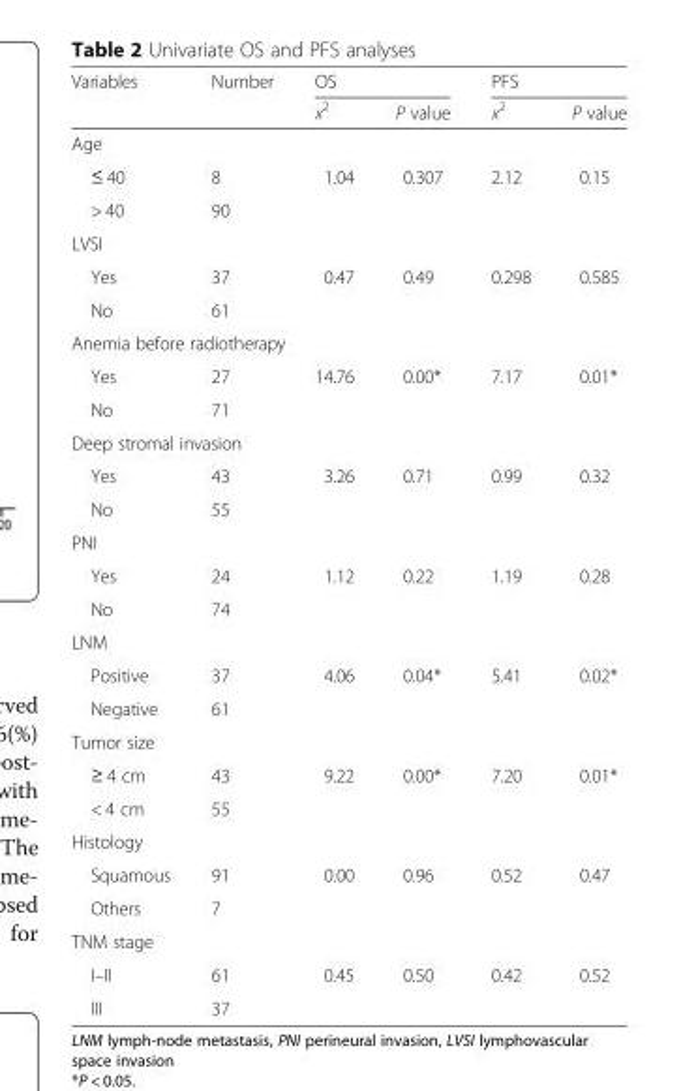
<table><thead><tr><td rowspan="2">Variables</td><td rowspan="2">Number</td><td colspan="2">OS</td><td colspan="2">PFS</td></tr><tr><td>x<sup>2</sup></td><td>P value</td><td>x<sup>2</sup></td><td>P value</td></tr></thead><tbody><tr><td colspan="6">Age</td></tr><tr><td>≤ 40</td><td>8</td><td rowspan="2">1.04</td><td rowspan="2">0.307</td><td rowspan="2">2.12</td><td rowspan="2">0.15</td></tr><tr><td>&gt; 40</td><td>90</td></tr><tr><td colspan="6">LVSI</td></tr><tr><td>Yes</td><td>37</td><td rowspan="2">0.47</td><td rowspan="2">0.49</td><td rowspan="2">0.298</td><td rowspan="2">0.585</td></tr><tr><td>No</td><td>61</td></tr><tr><td colspan="6">Anemia before radiotherapy</td></tr><tr><td>Yes</td><td>27</td><td rowspan="2">14.76</td><td rowspan="2">0.00*</td><td rowspan="2">7.17</td><td rowspan="2">0.01*</td></tr><tr><td>No</td><td>71</td></tr><tr><td colspan="6">Deep stromal invasion</td></tr><tr><td>Yes</td><td>43</td><td rowspan="2">3.26</td><td rowspan="2">0.71</td><td rowspan="2">0.99</td><td rowspan="2">0.32</td></tr><tr><td>No</td><td>55</td></tr><tr><td colspan="6">PNI</td></tr><tr><td>Yes</td><td>24</td><td rowspan="2">1.12</td><td rowspan="2">0.22</td><td rowspan="2">1.19</td><td rowspan="2">0.28</td></tr><tr><td>No</td><td>74</td></tr><tr><td colspan="6">LNM</td></tr><tr><td>Positive</td><td>37</td><td rowspan="2">4.06</td><td rowspan="2">0.04*</td><td rowspan="2">5.41</td><td rowspan="2">0.02*</td></tr><tr><td>Negative</td><td>61</td></tr><tr><td colspan="6">Tumor size</td></tr><tr><td>≥ 4 cm</td><td>43</td><td rowspan="2">9.22</td><td rowspan="2">0.00*</td><td rowspan="2">7.20</td><td rowspan="2">0.01*</td></tr><tr><td>&lt; 4 cm</td><td>55</td></tr><tr><td colspan="6">Histology</td></tr><tr><td>Squamous</td><td>91</td><td>0.00</td><td>0.96</td><td>0.52</td><td>0.47</td></tr><tr><td>Others</td><td>7</td><td></td><td></td><td></td><td></td></tr><tr><td colspan="6">TNM stage</td></tr><tr><td>I–II</td><td>61</td><td>0.45</td><td>0.50</td><td>0.42</td><td>0.52</td></tr><tr><td>III</td><td>37</td><td></td><td></td><td></td><td></td></tr></tbody></table>